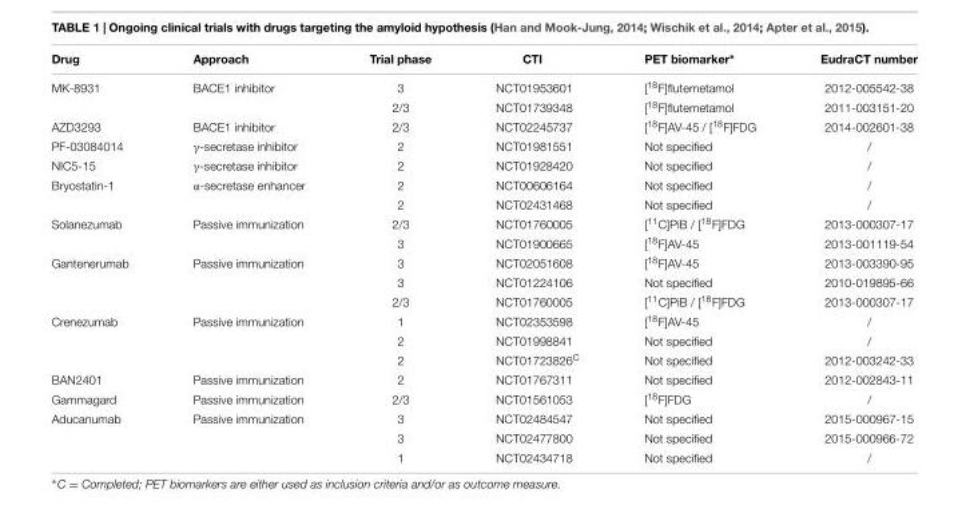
<table><thead><tr><td>Drug</td><td>Approach</td><td>Trial phase</td><td>CTI</td><td>PET biomarker∗</td><td>EudraCT number</td></tr></thead><tbody><tr><td rowspan="2">MK-8931</td><td>BACE1 inhibitor</td><td>3</td><td>NCT01953601</td><td>[<sup>18</sup>F]flutemetamol</td><td>2012-005542-38</td></tr><tr><td></td><td>2/3</td><td>NCT01739348</td><td>[<sup>18</sup>F]flutemetamol</td><td>2011-003151-20</td></tr><tr><td>AZD3293</td><td>BACE1 inhibitor</td><td>2/3</td><td>NCT02245737</td><td>[<sup>18</sup>F]AV-45 / [<sup>18</sup>F]FDG</td><td>2014-002601-38</td></tr><tr><td>PF-03084014</td><td>γ-secretase inhibitor</td><td>2</td><td>NCT01981551</td><td>Not specified</td><td>/</td></tr><tr><td>NIC5-15</td><td>γ-secretase inhibitor</td><td>2</td><td>NCT01928420</td><td>Not specified</td><td>/</td></tr><tr><td rowspan="2">Bryostatin-1</td><td>α-secretase enhancer</td><td>2</td><td>NCT00606164</td><td>Not specified</td><td>/</td></tr><tr><td></td><td>2</td><td>NCT02431468</td><td>Not specified</td><td>/</td></tr><tr><td rowspan="2">Solanezumab</td><td>Passive immunization</td><td>2/3</td><td>NCT01760005</td><td>[<sup>11</sup>C]PiB / [<sup>18</sup>F]FDG</td><td>2013-000307-17</td></tr><tr><td></td><td>3</td><td>NCT01900665</td><td>[<sup>18</sup>F]AV-45</td><td>2013-001119-54</td></tr><tr><td rowspan="3">Gantenerumab</td><td>Passive immunization</td><td>3</td><td>NCT02051608</td><td>[<sup>18</sup>F]AV-45</td><td>2013-003390-95</td></tr><tr><td></td><td>3</td><td>NCT01224106</td><td>Not specified</td><td>2010-019895-66</td></tr><tr><td></td><td>2/3</td><td>NCT01760005</td><td>[<sup>11</sup>C]PiB / [<sup>18</sup>F]FDG</td><td>2013-000307-17</td></tr><tr><td rowspan="3">Crenezumab</td><td>Passive immunization</td><td>1</td><td>NCT02353598</td><td>[<sup>18</sup>F]AV-45</td><td>/</td></tr><tr><td></td><td>2</td><td>NCT01998841</td><td>Not specified</td><td>/</td></tr><tr><td></td><td>2</td><td>NCT01723826<sup>C</sup></td><td>Not specified</td><td>2012-003242-33</td></tr><tr><td>BAN2401</td><td>Passive immunization</td><td>2</td><td>NCT01767311</td><td>Not specified</td><td>2012-002843-11</td></tr><tr><td>Gammagard</td><td>Passive immunization</td><td>2/3</td><td>NCT01561053</td><td>[<sup>18</sup>F]FDG</td><td>/</td></tr><tr><td rowspan="3">Aducanumab</td><td>Passive immunization</td><td>3</td><td>NCT02484547</td><td>Not specified</td><td>2015-000967-15</td></tr><tr><td></td><td>3</td><td>NCT02477800</td><td>Not specified</td><td>2015-000966-72</td></tr><tr><td></td><td>1</td><td>NCT02434718</td><td>Not specified</td><td>/</td></tr></tbody></table>